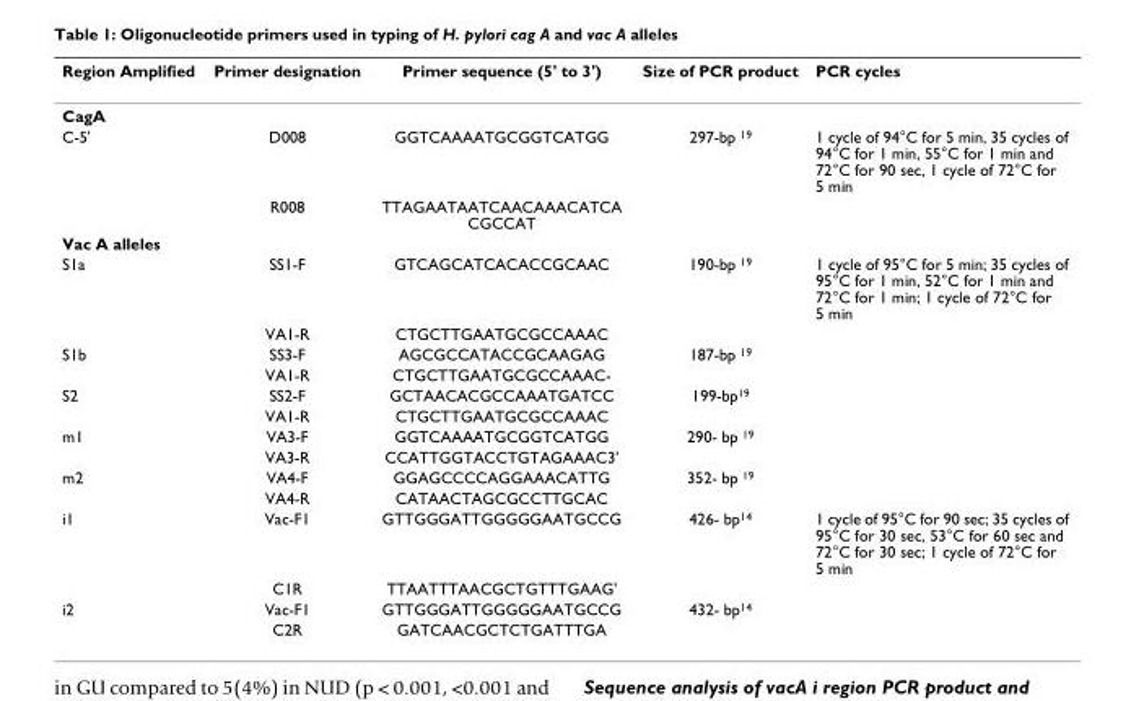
<table><thead><tr><td>Region Amplified</td><td>Primer designation</td><td>Primer sequence (5&#x27; to 3&#x27;)</td><td>Size of PCR product</td><td>PCR cycles</td></tr></thead><tbody><tr><td colspan="5">CagA</td></tr><tr><td rowspan="2">C-5&#x27;</td><td>D008</td><td>GGTCAAAATGCGGTCATGG</td><td>297-bp <sup>19</sup></td><td>1 cycle of 94°C for 5 min, 35 cycles of 94°C for 1 min, 55°C for 1 min and 72°C for 90 sec, 1 cycle of 72°C for 5 min</td></tr><tr><td>R008</td><td>TTAGAATAATCAACAAACATCA CGCCAT</td><td></td><td></td></tr><tr><td colspan="5">Vac A alleles</td></tr><tr><td rowspan="2">S1a</td><td>SS1-F</td><td>GTCAGCATCACACCGCAAC</td><td>190-bp <sup>19</sup></td><td>1 cycle of 95°C for 5 min; 35 cycles of 95°C for 1 min, 52°C for 1 min and 72°C for 1 min; 1 cycle of 72°C for 5 min</td></tr><tr><td>VA1-R</td><td>CTGCTTGAATGCGCCAAAC</td><td></td><td></td></tr><tr><td rowspan="2">S1b</td><td>SS3-F</td><td>AGCGCCATACCGCAAGAG</td><td>187-bp <sup>19</sup></td><td></td></tr><tr><td>VA1-R</td><td>CTGCTTGAATGCGCCAAAC-</td><td></td><td></td></tr><tr><td rowspan="2">S2</td><td>SS2-F</td><td>GCTAACACGCCAAATGATCC</td><td>199-bp<sup>19</sup></td><td></td></tr><tr><td>VA1-R</td><td>CTGCTTGAATGCGCCAAAC</td><td></td><td></td></tr><tr><td rowspan="2">m1</td><td>VA3-F</td><td>GGTCAAAATGCGGTCATGG</td><td>290- bp <sup>19</sup></td><td></td></tr><tr><td>VA3-R</td><td>CCATTGGTACCTGTAGAAAC3&#x27;</td><td></td><td></td></tr><tr><td rowspan="2">m2</td><td>VA4-F</td><td>GGAGCCCCAGGAAACATTG</td><td>352- bp <sup>19</sup></td><td></td></tr><tr><td>VA4-R</td><td>CATAACTAGCGCCTTGCAC</td><td></td><td></td></tr><tr><td rowspan="2">i1</td><td>Vac-F1</td><td>GTTGGGATTGGGGGAATGCCG</td><td>426- bp<sup>14</sup></td><td>1 cycle of 95°C for 90 sec; 35 cycles of 95°C for 30 sec, 53°C for 60 sec and 72°C for 30 sec; 1 cycle of 72°C for 5 min</td></tr><tr><td>C1R</td><td>TTAATTTAACGCTGTTTGAAG&#x27;</td><td></td><td></td></tr><tr><td rowspan="2">i2</td><td>Vac-F1</td><td>GTTGGGATTGGGGGAATGCCG</td><td>432- bp<sup>14</sup></td><td></td></tr><tr><td>C2R</td><td>GATCAACGCTCTGATTTGA</td><td></td><td></td></tr></tbody></table>